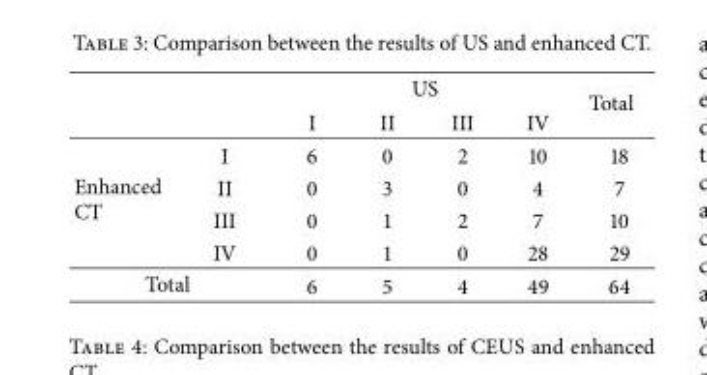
<table><thead><tr><td rowspan="2"></td><td rowspan="2"></td><td colspan="4">US</td><td rowspan="2">Total</td></tr><tr><td>I</td><td>II</td><td>III</td><td>IV</td></tr></thead><tbody><tr><td rowspan="4">Enhanced CT</td><td>I</td><td>6</td><td>0</td><td>2</td><td>10</td><td>18</td></tr><tr><td>II</td><td>0</td><td>3</td><td>0</td><td>4</td><td>7</td></tr><tr><td>III</td><td>0</td><td>1</td><td>2</td><td>7</td><td>10</td></tr><tr><td>IV</td><td>0</td><td>1</td><td>0</td><td>28</td><td>29</td></tr><tr><td colspan="2">Total</td><td>6</td><td>5</td><td>4</td><td>49</td><td>64</td></tr></tbody></table>